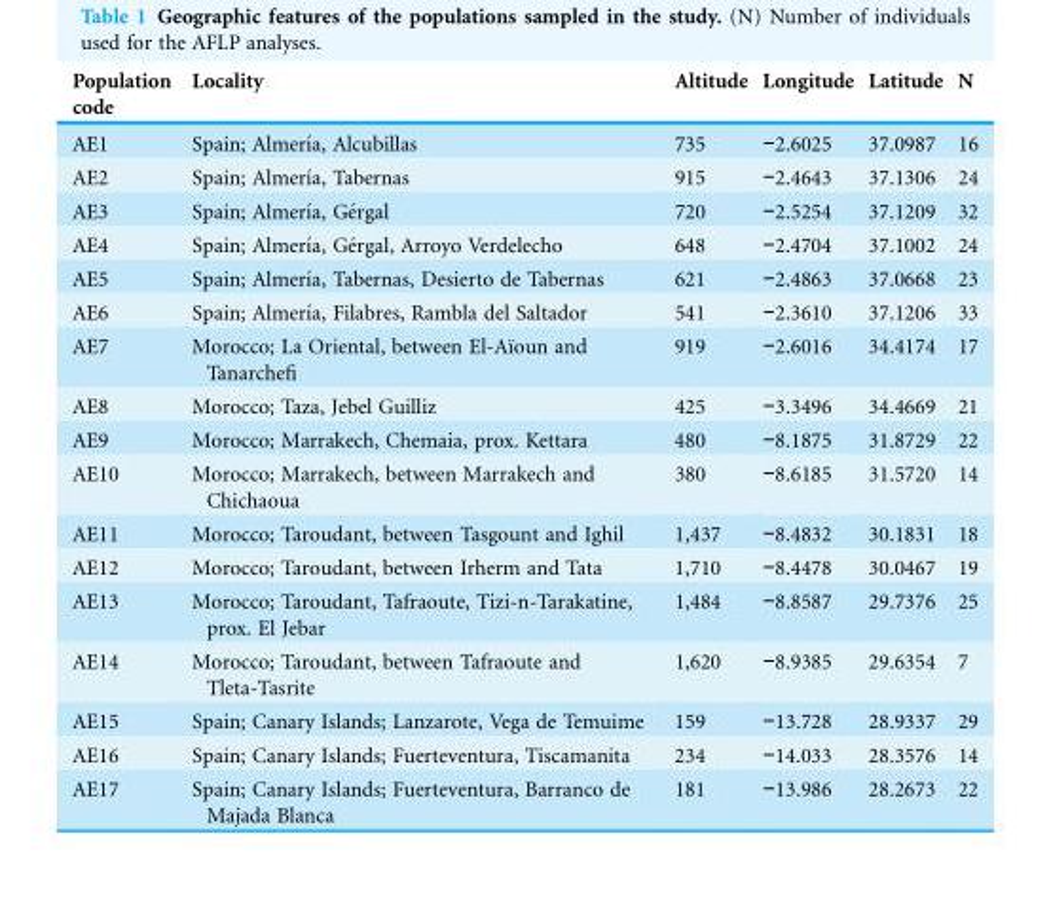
<table><thead><tr><td>Population code</td><td>Locality</td><td>Altitude</td><td>Longitude</td><td>Latitude</td><td>N</td></tr></thead><tbody><tr><td>AE1</td><td>Spain; Almerı´a, Alcubillas</td><td>735</td><td>−2.6025</td><td>37.0987</td><td>16</td></tr><tr><td>AE2</td><td>Spain; Almerı´a, Tabernas</td><td>915</td><td>−2.4643</td><td>37.1306</td><td>24</td></tr><tr><td>AE3</td><td>Spain; Almerı´a, Ge´rgal</td><td>720</td><td>−2.5254</td><td>37.1209</td><td>32</td></tr><tr><td>AE4</td><td>Spain; Almerı´a, Ge´rgal, Arroyo Verdelecho</td><td>648</td><td>−2.4704</td><td>37.1002</td><td>24</td></tr><tr><td>AE5</td><td>Spain; Almerı´a, Tabernas, Desierto de Tabernas</td><td>621</td><td>−2.4863</td><td>37.0668</td><td>23</td></tr><tr><td>AE6</td><td>Spain; Almerı´a, Filabres, Rambla del Saltador</td><td>541</td><td>−2.3610</td><td>37.1206</td><td>33</td></tr><tr><td>AE7</td><td>Morocco; La Oriental, between El-Aı¨oun and Tanarchefi</td><td>919</td><td>−2.6016</td><td>34.4174</td><td>17</td></tr><tr><td>AE8</td><td>Morocco; Taza, Jebel Guilliz</td><td>425</td><td>−3.3496</td><td>34.4669</td><td>21</td></tr><tr><td>AE9</td><td>Morocco; Marrakech, Chemaia, prox. Kettara</td><td>480</td><td>−8.1875</td><td>31.8729</td><td>22</td></tr><tr><td>AE10</td><td>Morocco; Marrakech, between Marrakech and Chichaoua</td><td>380</td><td>−8.6185</td><td>31.5720</td><td>14</td></tr><tr><td>AE11</td><td>Morocco; Taroudant, between Tasgount and Ighil</td><td>1,437</td><td>−8.4832</td><td>30.1831</td><td>18</td></tr><tr><td>AE12</td><td>Morocco; Taroudant, between Irherm and Tata</td><td>1,710</td><td>−8.4478</td><td>30.0467</td><td>19</td></tr><tr><td>AE13</td><td>Morocco; Taroudant, Tafraoute, Tizi-n-Tarakatine, prox. El Jebar</td><td>1,484</td><td>−8.8587</td><td>29.7376</td><td>25</td></tr><tr><td>AE14</td><td>Morocco; Taroudant, between Tafraoute and Tleta-Tasrite</td><td>1,620</td><td>−8.9385</td><td>29.6354</td><td>7</td></tr><tr><td>AE15</td><td>Spain; Canary Islands; Lanzarote, Vega de Temuime</td><td>159</td><td>−13.728</td><td>28.9337</td><td>29</td></tr><tr><td>AE16</td><td>Spain; Canary Islands; Fuerteventura, Tiscamanita</td><td>234</td><td>−14.033</td><td>28.3576</td><td>14</td></tr><tr><td>AE17</td><td>Spain; Canary Islands; Fuerteventura, Barranco de Majada Blanca</td><td>181</td><td>−13.986</td><td>28.2673</td><td>22</td></tr></tbody></table>